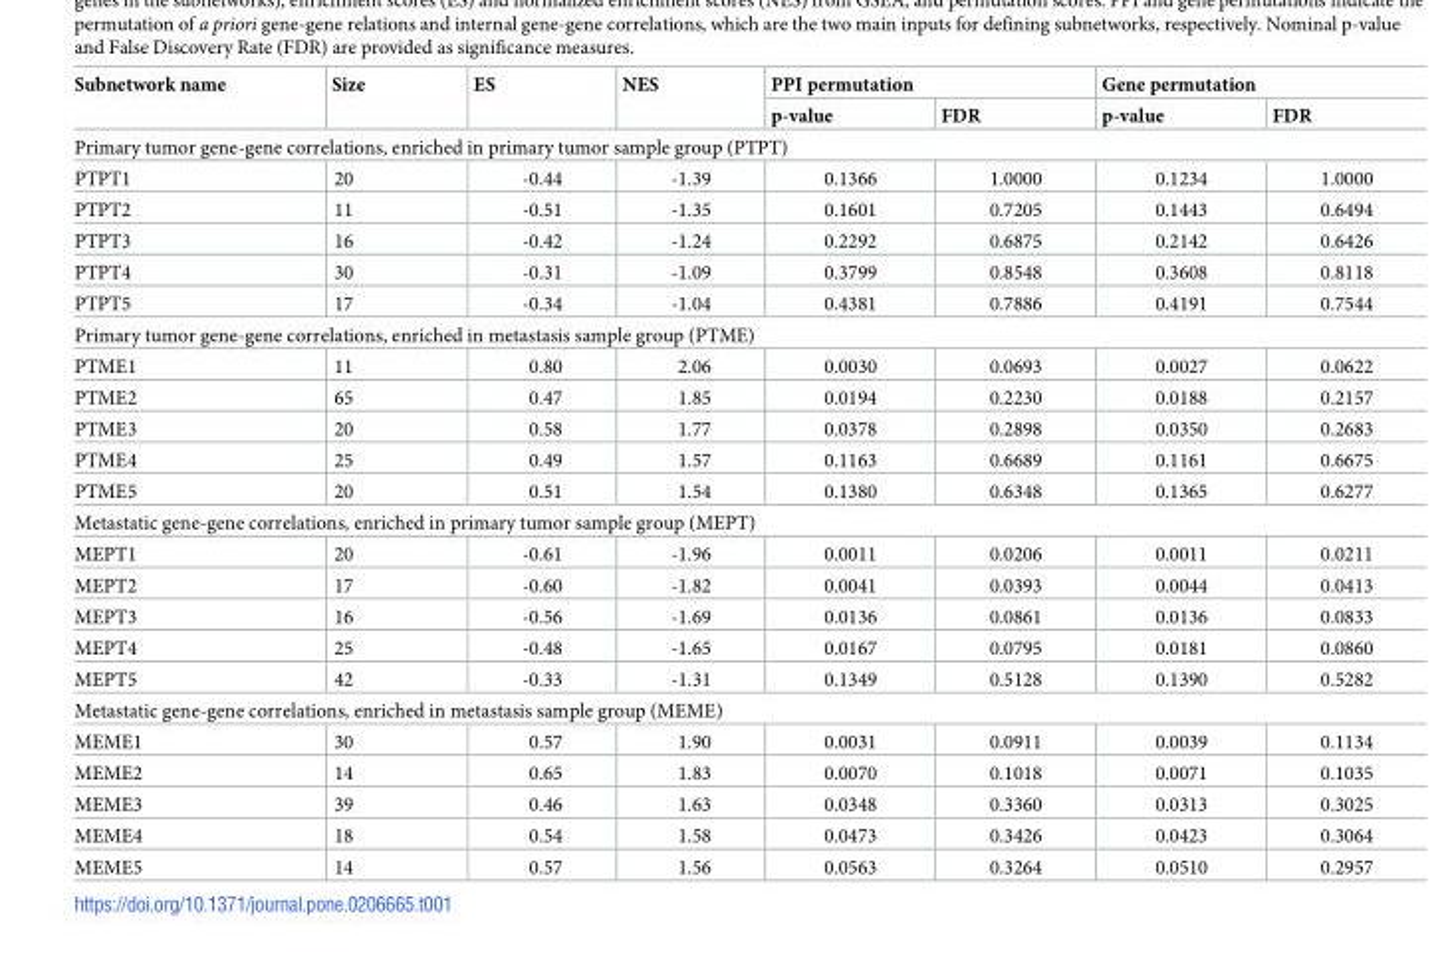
<table><thead><tr><td rowspan="2">Subnetwork name</td><td rowspan="2">Size</td><td rowspan="2">ES</td><td rowspan="2">NES</td><td colspan="2">PPI permutation</td><td colspan="2">Gene permutation</td></tr><tr><td>p-value</td><td>FDR</td><td>p-value</td><td>FDR</td></tr></thead><tbody><tr><td colspan="8">Primary tumor gene-gene correlations, enriched in primary tumor sample group (PTPT)</td></tr><tr><td>PTPT1</td><td>20</td><td>-0.44</td><td>-1.39</td><td>0.1366</td><td>1.0000</td><td>0.1234</td><td>1.0000</td></tr><tr><td>PTPT2</td><td>11</td><td>-0.51</td><td>-1.35</td><td>0.1601</td><td>0.7205</td><td>0.1443</td><td>0.6494</td></tr><tr><td>PTPT3</td><td>16</td><td>-0.42</td><td>-1.24</td><td>0.2292</td><td>0.6875</td><td>0.2142</td><td>0.6426</td></tr><tr><td>PTPT4</td><td>30</td><td>-0.31</td><td>-1.09</td><td>0.3799</td><td>0.8548</td><td>0.3608</td><td>0.8118</td></tr><tr><td>PTPT5</td><td>17</td><td>-0.34</td><td>-1.04</td><td>0.4381</td><td>0.7886</td><td>0.4191</td><td>0.7544</td></tr><tr><td colspan="8">Primary tumor gene-gene correlations, enriched in metastasis sample group (PTME)</td></tr><tr><td>PTME1</td><td>11</td><td>0.80</td><td>2.06</td><td>0.0030</td><td>0.0693</td><td>0.0027</td><td>0.0622</td></tr><tr><td>PTME2</td><td>65</td><td>0.47</td><td>1.85</td><td>0.0194</td><td>0.2230</td><td>0.0188</td><td>0.2157</td></tr><tr><td>PTME3</td><td>20</td><td>0.58</td><td>1.77</td><td>0.0378</td><td>0.2898</td><td>0.0350</td><td>0.2683</td></tr><tr><td>PTME4</td><td>25</td><td>0.49</td><td>1.57</td><td>0.1163</td><td>0.6689</td><td>0.1161</td><td>0.6675</td></tr><tr><td>PTME5</td><td>20</td><td>0.51</td><td>1.54</td><td>0.1380</td><td>0.6348</td><td>0.1365</td><td>0.6277</td></tr><tr><td colspan="8">Metastatic gene-gene correlations, enriched in primary tumor sample group (MEPT)</td></tr><tr><td>MEPT1</td><td>20</td><td>-0.61</td><td>-1.96</td><td>0.0011</td><td>0.0206</td><td>0.0011</td><td>0.0211</td></tr><tr><td>MEPT2</td><td>17</td><td>-0.60</td><td>-1.82</td><td>0.0041</td><td>0.0393</td><td>0.0044</td><td>0.0413</td></tr><tr><td>MEPT3</td><td>16</td><td>-0.56</td><td>-1.69</td><td>0.0136</td><td>0.0861</td><td>0.0136</td><td>0.0833</td></tr><tr><td>MEPT4</td><td>25</td><td>-0.48</td><td>-1.65</td><td>0.0167</td><td>0.0795</td><td>0.0181</td><td>0.0860</td></tr><tr><td>MEPT5</td><td>42</td><td>-0.33</td><td>-1.31</td><td>0.1349</td><td>0.5128</td><td>0.1390</td><td>0.5282</td></tr><tr><td colspan="8">Metastatic gene-gene correlations, enriched in metastasis sample group (MEME)</td></tr><tr><td>MEME1</td><td>30</td><td>0.57</td><td>1.90</td><td>0.0031</td><td>0.0911</td><td>0.0039</td><td>0.1134</td></tr><tr><td>MEME2</td><td>14</td><td>0.65</td><td>1.83</td><td>0.0070</td><td>0.1018</td><td>0.0071</td><td>0.1035</td></tr><tr><td>MEME3</td><td>39</td><td>0.46</td><td>1.63</td><td>0.0348</td><td>0.3360</td><td>0.0313</td><td>0.3025</td></tr><tr><td>MEME4</td><td>18</td><td>0.54</td><td>1.58</td><td>0.0473</td><td>0.3426</td><td>0.0423</td><td>0.3064</td></tr><tr><td>MEME5</td><td>14</td><td>0.57</td><td>1.56</td><td>0.0563</td><td>0.3264</td><td>0.0510</td><td>0.2957</td></tr></tbody></table>